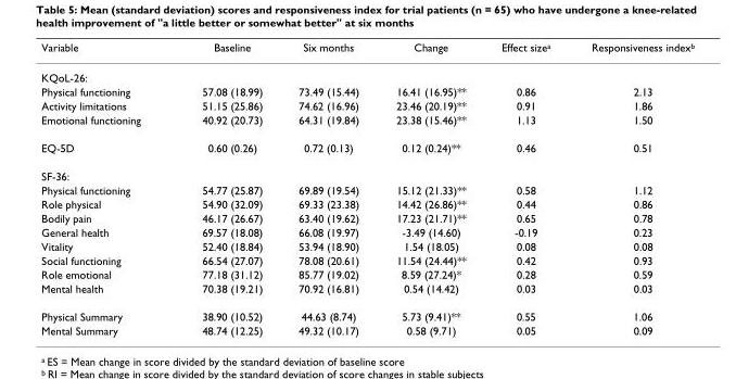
<table><thead><tr><td>Variable</td><td>Baseline</td><td>Six months</td><td>Change</td><td>Effect size<sup>a</sup></td><td>Responsiveness index<sup>b</sup></td></tr></thead><tbody><tr><td colspan="6">KQoL-26:</td></tr><tr><td>Physical functioning</td><td>57.08 (18.99)</td><td>73.49 (15.44)</td><td>16.41 (16.95)**</td><td>0.86</td><td>2.13</td></tr><tr><td>Activity limitations</td><td>51.15 (25.86)</td><td>74.62 (16.96)</td><td>23.46 (20.19)**</td><td>0.91</td><td>1.86</td></tr><tr><td>Emotional functioning</td><td>40.92 (20.73)</td><td>64.31 (19.84)</td><td>23.38 (15.46)**</td><td>1.13</td><td>1.50</td></tr><tr><td>EQ-5D</td><td>0.60 (0.26)</td><td>0.72 (0.13)</td><td>0.12 (0.24)**</td><td>0.46</td><td>0.51</td></tr><tr><td colspan="6">SF-36:</td></tr><tr><td>Physical functioning</td><td>54.77 (25.87)</td><td>69.89 (19.54)</td><td>15.12 (21.33)**</td><td>0.58</td><td>1.12</td></tr><tr><td>Role physical</td><td>54.90 (32.09)</td><td>69.33 (23.38)</td><td>14.42 (26.86)**</td><td>0.44</td><td>0.86</td></tr><tr><td>Bodily pain</td><td>46.17 (26.67)</td><td>63.40 (19.62)</td><td>17.23 (21.71)**</td><td>0.65</td><td>0.78</td></tr><tr><td>General health</td><td>69.57 (18.08)</td><td>66.08 (19.97)</td><td>-3.49 (14.60)</td><td>-0.19</td><td>0.23</td></tr><tr><td>Vitality</td><td>52.40 (18.84)</td><td>53.94 (18.90)</td><td>1.54 (18.05)</td><td>0.08</td><td>0.08</td></tr><tr><td>Social functioning</td><td>66.54 (27.07)</td><td>78.08 (20.61)</td><td>11.54 (24.44)**</td><td>0.42</td><td>0.93</td></tr><tr><td>Role emotional</td><td>77.18 (31.12)</td><td>85.77 (19.02)</td><td>8.59 (27.24)*</td><td>0.28</td><td>0.59</td></tr><tr><td>Mental health</td><td>70.38 (19.21)</td><td>70.92 (16.81)</td><td>0.54 (14.42)</td><td>0.03</td><td>0.03</td></tr><tr><td>Physical Summary</td><td>38.90 (10.52)</td><td>44.63 (8.74)</td><td>5.73 (9.41)**</td><td>0.55</td><td>1.06</td></tr><tr><td>Mental Summary</td><td>48.74 (12.25)</td><td>49.32 (10.17)</td><td>0.58 (9.71)</td><td>0.05</td><td>0.09</td></tr></tbody></table>